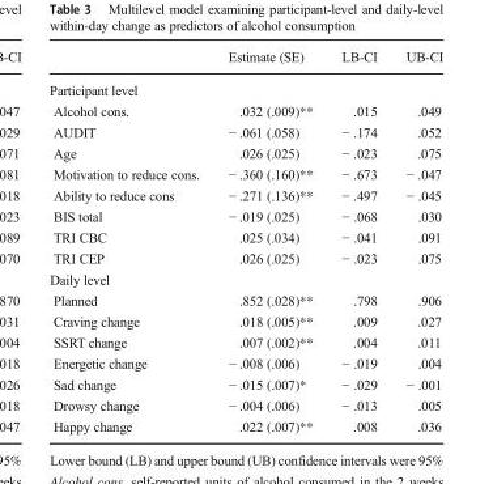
<table><thead><tr><td></td><td>Estimate (SE)</td><td>LB-CI</td><td>UB-CI</td></tr></thead><tbody><tr><td colspan="4">Participant level</td></tr><tr><td>Alcohol cons.</td><td>.032 (.009)**</td><td>.015</td><td>.049</td></tr><tr><td>AUDIT</td><td>− .061 (.058)</td><td>− .174</td><td>.052</td></tr><tr><td>Age</td><td>.026 (.025)</td><td>− .023</td><td>.075</td></tr><tr><td>Motivation to reduce cons.</td><td>− .360 (.160)**</td><td>− .673</td><td>− .047</td></tr><tr><td>Ability to reduce cons</td><td>− .271 (.136)**</td><td>− .497</td><td>− .045</td></tr><tr><td>BIS total</td><td>− .019 (.025)</td><td>− .068</td><td>.030</td></tr><tr><td>TRI CBC</td><td>.025 (.034)</td><td>− .041</td><td>.091</td></tr><tr><td>TRI CEP</td><td>.026 (.025)</td><td>− .023</td><td>.075</td></tr><tr><td colspan="4">Daily level</td></tr><tr><td>Planned</td><td>.852 (.028)**</td><td>.798</td><td>.906</td></tr><tr><td>Craving change</td><td>.018 (.005)**</td><td>.009</td><td>.027</td></tr><tr><td>SSRT change</td><td>.007 (.002)**</td><td>.004</td><td>.011</td></tr><tr><td>Energetic change</td><td>− .008 (.006)</td><td>− .019</td><td>.004</td></tr><tr><td>Sad change</td><td>− .015 (.007)*</td><td>− .029</td><td>− .001</td></tr><tr><td>Drowsy change</td><td>− .004 (.006)</td><td>− .013</td><td>.005</td></tr><tr><td>Happy change</td><td>.022 (.007)**</td><td>.008</td><td>.036</td></tr></tbody></table>